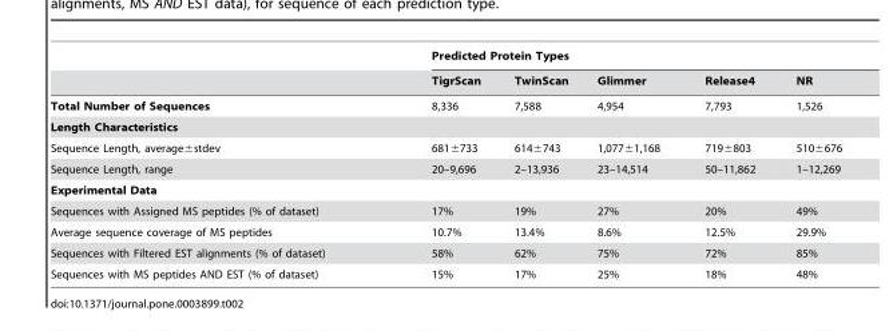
<table><thead><tr><td rowspan="2"></td><td colspan="5">Predicted Protein Types</td></tr><tr><td>TigrScan</td><td>TwinScan</td><td>Glimmer</td><td>Release4</td><td>NR</td></tr></thead><tbody><tr><td>Total Number of Sequences</td><td>8,336</td><td>7,588</td><td>4,954</td><td>7,793</td><td>1,526</td></tr><tr><td colspan="6">Length Characteristics</td></tr><tr><td>Sequence Length, average±stdev</td><td>681±733</td><td>614±743</td><td>1,077±1,168</td><td>719±803</td><td>510±676</td></tr><tr><td>Sequence Length, range</td><td>20–9,696</td><td>2–13,936</td><td>23–14,514</td><td>50–11,862</td><td>1–12,269</td></tr><tr><td colspan="6">Experimental Data</td></tr><tr><td>Sequences with Assigned MS peptides (% of dataset)</td><td>17%</td><td>19%</td><td>27%</td><td>20%</td><td>49%</td></tr><tr><td>Average sequence coverage of MS peptides</td><td>10.7%</td><td>13.4%</td><td>8.6%</td><td>12.5%</td><td>29.9%</td></tr><tr><td>Sequences with Filtered EST alignments (% of dataset)</td><td>58%</td><td>62%</td><td>75%</td><td>72%</td><td>85%</td></tr><tr><td>Sequences with MS peptides AND EST (% of dataset)</td><td>15%</td><td>17%</td><td>25%</td><td>18%</td><td>48%</td></tr></tbody></table>